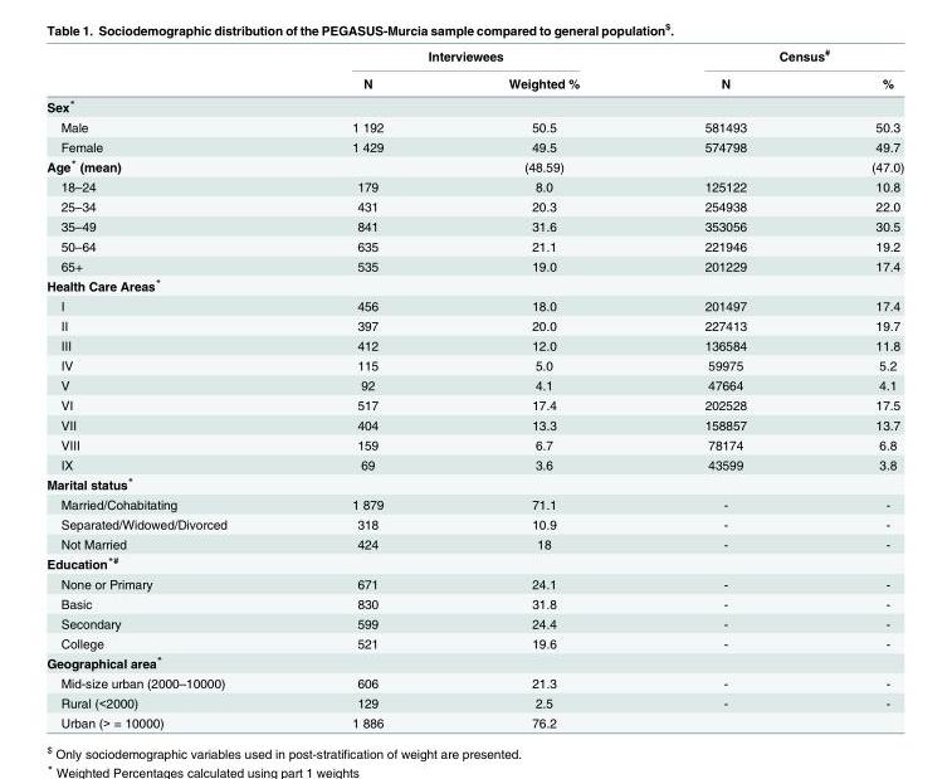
<table><thead><tr><td rowspan="2"></td><td colspan="2">Interviewees</td><td colspan="2">Census<sup>#</sup></td></tr><tr><td>N</td><td>Weighted %</td><td>N</td><td>%</td></tr></thead><tbody><tr><td colspan="5">Sex*</td></tr><tr><td>Male</td><td>1 192</td><td>50.5</td><td>581493</td><td>50.3</td></tr><tr><td>Female</td><td>1 429</td><td>49.5</td><td>574798</td><td>49.7</td></tr><tr><td>Age* (mean)</td><td></td><td>(48.59)</td><td></td><td>(47.0)</td></tr><tr><td>18–24</td><td>179</td><td>8.0</td><td>125122</td><td>10.8</td></tr><tr><td>25–34</td><td>431</td><td>20.3</td><td>254938</td><td>22.0</td></tr><tr><td>35–49</td><td>841</td><td>31.6</td><td>353056</td><td>30.5</td></tr><tr><td>50–64</td><td>635</td><td>21.1</td><td>221946</td><td>19.2</td></tr><tr><td>65+</td><td>535</td><td>19.0</td><td>201229</td><td>17.4</td></tr><tr><td colspan="5">Health Care Areas*</td></tr><tr><td>I</td><td>456</td><td>18.0</td><td>201497</td><td>17.4</td></tr><tr><td>II</td><td>397</td><td>20.0</td><td>227413</td><td>19.7</td></tr><tr><td>III</td><td>412</td><td>12.0</td><td>136584</td><td>11.8</td></tr><tr><td>IV</td><td>115</td><td>5.0</td><td>59975</td><td>5.2</td></tr><tr><td>V</td><td>92</td><td>4.1</td><td>47664</td><td>4.1</td></tr><tr><td>VI</td><td>517</td><td>17.4</td><td>202528</td><td>17.5</td></tr><tr><td>VII</td><td>404</td><td>13.3</td><td>158857</td><td>13.7</td></tr><tr><td>VIII</td><td>159</td><td>6.7</td><td>78174</td><td>6.8</td></tr><tr><td>IX</td><td>69</td><td>3.6</td><td>43599</td><td>3.8</td></tr><tr><td colspan="5">Marital status*</td></tr><tr><td>Married/Cohabitating</td><td>1 879</td><td>71.1</td><td>-</td><td>-</td></tr><tr><td>Separated/Widowed/Divorced</td><td>318</td><td>10.9</td><td>-</td><td>-</td></tr><tr><td>Not Married</td><td>424</td><td>18</td><td>-</td><td>-</td></tr><tr><td colspan="5">Education<sup>*#</sup></td></tr><tr><td>None or Primary</td><td>671</td><td>24.1</td><td>-</td><td>-</td></tr><tr><td>Basic</td><td>830</td><td>31.8</td><td>-</td><td>-</td></tr><tr><td>Secondary</td><td>599</td><td>24.4</td><td>-</td><td>-</td></tr><tr><td>College</td><td>521</td><td>19.6</td><td>-</td><td>-</td></tr><tr><td colspan="5">Geographical area*</td></tr><tr><td>Mid-size urban (2000–10000)</td><td>606</td><td>21.3</td><td>-</td><td>-</td></tr><tr><td>Rural (&lt;2000)</td><td>129</td><td>2.5</td><td>-</td><td>-</td></tr><tr><td>Urban (&gt; = 10000)</td><td>1 886</td><td>76.2</td><td></td><td></td></tr></tbody></table>